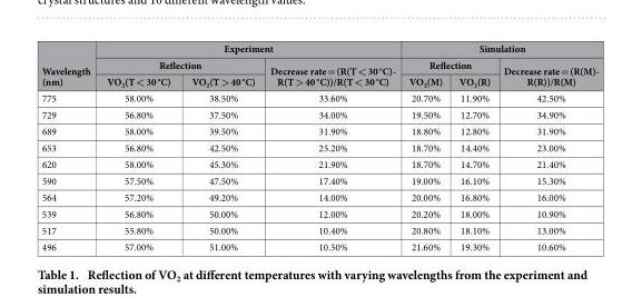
<table><thead><tr><td rowspan="3">Wavelength (nm)</td><td colspan="3">Experiment</td><td colspan="3">Simulation</td></tr><tr><td colspan="2">Reflection</td><td rowspan="2">Decrease rate = (R(T &lt; 30 °C)- R(T &gt; 40 °C))/R(T &lt; 30 °C)</td><td colspan="2">Reflection</td><td rowspan="2">Decrease rate = (R(M)- R(R))/R(M)</td></tr><tr><td>VO<sub>2</sub>(T &lt; 30 °C)</td><td>VO<sub>2</sub>(T &gt; 40 °C)</td><td>VO<sub>2</sub>(M)</td><td>VO<sub>2</sub>(R)</td></tr></thead><tbody><tr><td>775</td><td>58.00%</td><td>38.50%</td><td>33.60%</td><td>20.70%</td><td>11.90%</td><td>42.50%</td></tr><tr><td>729</td><td>56.80%</td><td>37.50%</td><td>34.00%</td><td>19.50%</td><td>12.70%</td><td>34.90%</td></tr><tr><td>689</td><td>58.00%</td><td>39.50%</td><td>31.90%</td><td>18.80%</td><td>12.80%</td><td>31.90%</td></tr><tr><td>653</td><td>56.80%</td><td>42.50%</td><td>25.20%</td><td>18.70%</td><td>14.40%</td><td>23.00%</td></tr><tr><td>620</td><td>58.00%</td><td>45.30%</td><td>21.90%</td><td>18.70%</td><td>14.70%</td><td>21.40%</td></tr><tr><td>590</td><td>57.50%</td><td>47.50%</td><td>17.40%</td><td>19.00%</td><td>16.10%</td><td>15.30%</td></tr><tr><td>564</td><td>57.20%</td><td>49.20%</td><td>14.00%</td><td>20.00%</td><td>16.80%</td><td>16.00%</td></tr><tr><td>539</td><td>56.80%</td><td>50.00%</td><td>12.00%</td><td>20.20%</td><td>18.00%</td><td>10.90%</td></tr><tr><td>517</td><td>55.80%</td><td>50.00%</td><td>10.40%</td><td>20.80%</td><td>18.10%</td><td>13.00%</td></tr><tr><td>496</td><td>57.00%</td><td>51.00%</td><td>10.50%</td><td>21.60%</td><td>19.30%</td><td>10.60%</td></tr></tbody></table>